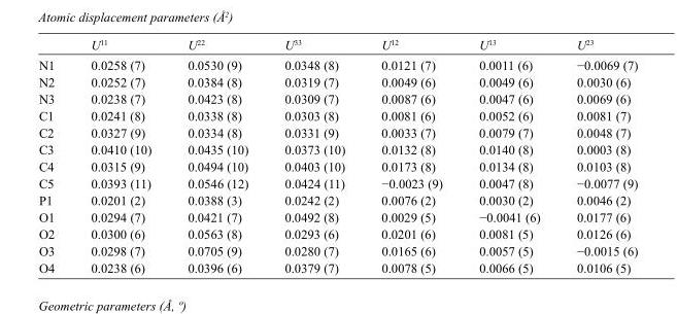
<table><thead><tr><td></td><td>U<sup>11</sup></td><td>U<sup>22</sup></td><td>U<sup>33</sup></td><td>U<sup>12</sup></td><td>U<sup>13</sup></td><td>U<sup>23</sup></td></tr></thead><tbody><tr><td>N1</td><td>0.0258 (7)</td><td>0.0530 (9)</td><td>0.0348 (8)</td><td>0.0121 (7)</td><td>0.0011 (6)</td><td>−0.0069 (7)</td></tr><tr><td>N2</td><td>0.0252 (7)</td><td>0.0384 (8)</td><td>0.0319 (7)</td><td>0.0049 (6)</td><td>0.0049 (6)</td><td>0.0030 (6)</td></tr><tr><td>N3</td><td>0.0238 (7)</td><td>0.0423 (8)</td><td>0.0309 (7)</td><td>0.0087 (6)</td><td>0.0047 (6)</td><td>0.0069 (6)</td></tr><tr><td>C1</td><td>0.0241 (8)</td><td>0.0338 (8)</td><td>0.0303 (8)</td><td>0.0081 (6)</td><td>0.0052 (6)</td><td>0.0081 (7)</td></tr><tr><td>C2</td><td>0.0327 (9)</td><td>0.0334 (8)</td><td>0.0331 (9)</td><td>0.0033 (7)</td><td>0.0079 (7)</td><td>0.0048 (7)</td></tr><tr><td>C3</td><td>0.0410 (10)</td><td>0.0435 (10)</td><td>0.0373 (10)</td><td>0.0132 (8)</td><td>0.0140 (8)</td><td>0.0003 (8)</td></tr><tr><td>C4</td><td>0.0315 (9)</td><td>0.0494 (10)</td><td>0.0403 (10)</td><td>0.0173 (8)</td><td>0.0134 (8)</td><td>0.0103 (8)</td></tr><tr><td>C5</td><td>0.0393 (11)</td><td>0.0546 (12)</td><td>0.0424 (11)</td><td>−0.0023 (9)</td><td>0.0047 (8)</td><td>−0.0077 (9)</td></tr><tr><td>P1</td><td>0.0201 (2)</td><td>0.0388 (3)</td><td>0.0242 (2)</td><td>0.0076 (2)</td><td>0.0030 (2)</td><td>0.0046 (2)</td></tr><tr><td>O1</td><td>0.0294 (7)</td><td>0.0421 (7)</td><td>0.0492 (8)</td><td>0.0029 (5)</td><td>−0.0041 (6)</td><td>0.0177 (6)</td></tr><tr><td>O2</td><td>0.0300 (6)</td><td>0.0563 (8)</td><td>0.0293 (6)</td><td>0.0201 (6)</td><td>0.0081 (5)</td><td>0.0126 (6)</td></tr><tr><td>O3</td><td>0.0298 (7)</td><td>0.0705 (9)</td><td>0.0280 (7)</td><td>0.0165 (6)</td><td>0.0057 (5)</td><td>−0.0015 (6)</td></tr><tr><td>O4</td><td>0.0238 (6)</td><td>0.0396 (6)</td><td>0.0379 (7)</td><td>0.0078 (5)</td><td>0.0066 (5)</td><td>0.0106 (5)</td></tr></tbody></table>